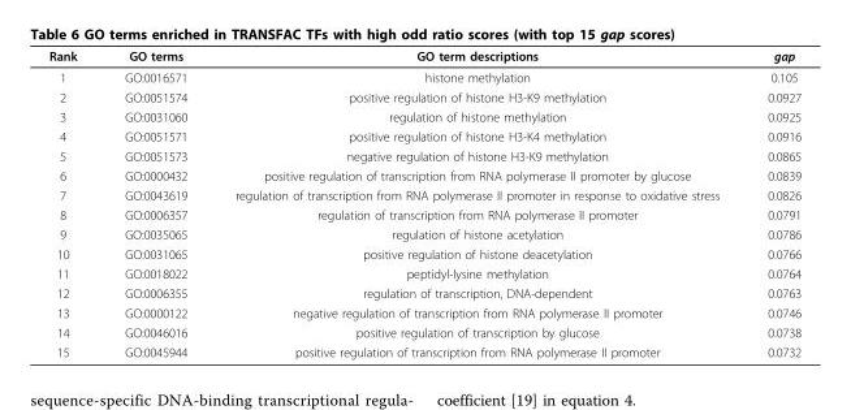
<table><thead><tr><td>Rank</td><td>GO terms</td><td>GO term descriptions</td><td>gap</td></tr></thead><tbody><tr><td>1</td><td>GO:0016571</td><td>histone methylation</td><td>0.105</td></tr><tr><td>2</td><td>GO:0051574</td><td>positive regulation of histone H3-K9 methylation</td><td>0.0927</td></tr><tr><td>3</td><td>GO:0031060</td><td>regulation of histone methylation</td><td>0.0925</td></tr><tr><td>4</td><td>GO:0051571</td><td>positive regulation of histone H3-K4 methylation</td><td>0.0916</td></tr><tr><td>5</td><td>GO:0051573</td><td>negative regulation of histone H3-K9 methylation</td><td>0.0865</td></tr><tr><td>6</td><td>GO:0000432</td><td>positive regulation of transcription from RNA polymerase II promoter by glucose</td><td>0.0839</td></tr><tr><td>7</td><td>GO:0043619</td><td>regulation of transcription from RNA polymerase II promoter in response to oxidative stress</td><td>0.0826</td></tr><tr><td>8</td><td>GO:0006357</td><td>regulation of transcription from RNA polymerase II promoter</td><td>0.0791</td></tr><tr><td>9</td><td>GO:0035065</td><td>regulation of histone acetylation</td><td>0.0786</td></tr><tr><td>10</td><td>GO:0031065</td><td>positive regulation of histone deacetylation</td><td>0.0766</td></tr><tr><td>11</td><td>GO:0018022</td><td>peptidyl-lysine methylation</td><td>0.0764</td></tr><tr><td>12</td><td>GO:0006355</td><td>regulation of transcription, DNA-dependent</td><td>0.0763</td></tr><tr><td>13</td><td>GO:0000122</td><td>negative regulation of transcription from RNA polymerase II promoter</td><td>0.0746</td></tr><tr><td>14</td><td>GO:0046016</td><td>positive regulation of transcription by glucose</td><td>0.0738</td></tr><tr><td>15</td><td>GO:0045944</td><td>positive regulation of transcription from RNA polymerase II promoter</td><td>0.0732</td></tr></tbody></table>